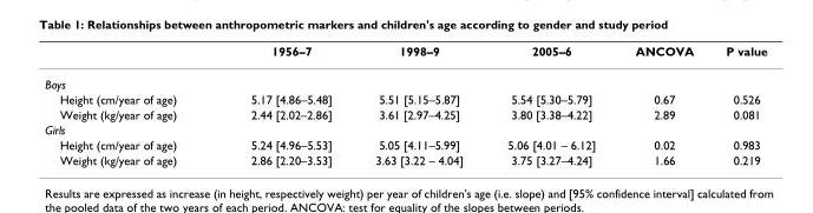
<table><thead><tr><td></td><td>1956–7</td><td>1998–9</td><td>2005–6</td><td>ANCOVA</td><td>P value</td></tr></thead><tbody><tr><td colspan="6">Boys</td></tr><tr><td>Height (cm/year of age)</td><td>5.17 [4.86–5.48]</td><td>5.51 [5.15–5.87]</td><td>5.54 [5.30–5.79]</td><td>0.67</td><td>0.526</td></tr><tr><td>Weight (kg/year of age)</td><td>2.44 [2.02–2.86]</td><td>3.61 [2.97–4.25]</td><td>3.80 [3.38–4.22]</td><td>2.89</td><td>0.081</td></tr><tr><td colspan="6">Girls</td></tr><tr><td>Height (cm/year of age)</td><td>5.24 [4.96–5.53]</td><td>5.05 [4.11–5.99]</td><td>5.06 [4.01 – 6.12]</td><td>0.02</td><td>0.983</td></tr><tr><td>Weight (kg/year of age)</td><td>2.86 [2.20–3.53]</td><td>3.63 [3.22 – 4.04]</td><td>3.75 [3.27–4.24]</td><td>1.66</td><td>0.219</td></tr></tbody></table>